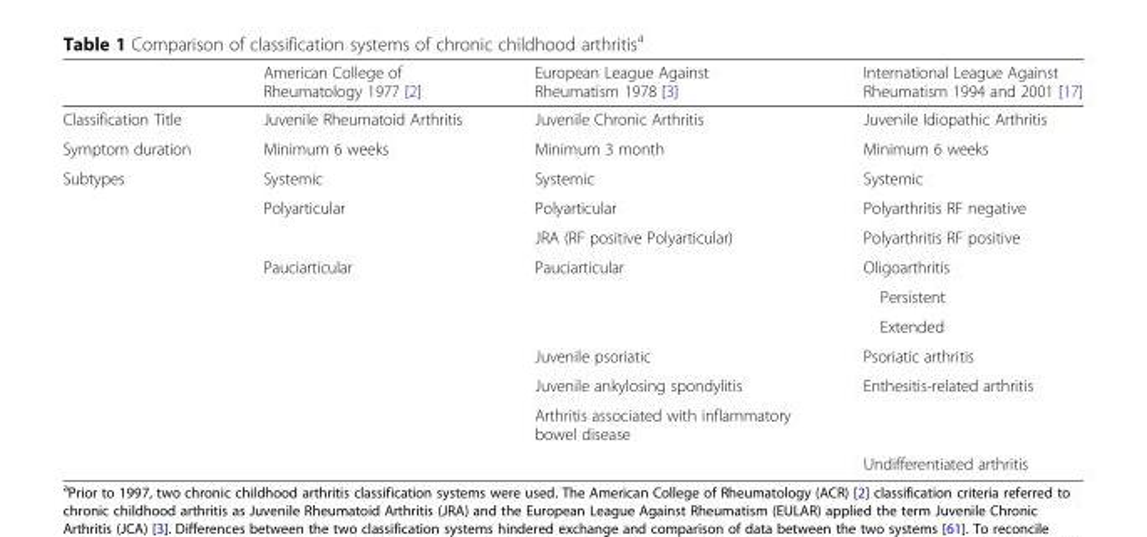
<table><thead><tr><td></td><td>American College of Rheumatology 1977 [2]</td><td>European League Against Rheumatism 1978 [3]</td><td>International League Against Rheumatism 1994 and 2001 [17]</td></tr></thead><tbody><tr><td>Classification Title</td><td>Juvenile Rheumatoid Arthritis</td><td>Juvenile Chronic Arthritis</td><td>Juvenile Idiopathic Arthritis</td></tr><tr><td>Symptom duration</td><td>Minimum 6 weeks</td><td>Minimum 3 month</td><td>Minimum 6 weeks</td></tr><tr><td rowspan="10">Subtypes</td><td>Systemic</td><td>Systemic</td><td>Systemic</td></tr><tr><td>Polyarticular</td><td>Polyarticular</td><td>Polyarthritis RF negative</td></tr><tr><td></td><td>JRA (RF positive Polyarticular)</td><td>Polyarthritis RF positive</td></tr><tr><td rowspan="3">Pauciarticular</td><td rowspan="3">Pauciarticular</td><td>Oligoarthritis</td></tr><tr><td>Persistent</td></tr><tr><td>Extended</td></tr><tr><td></td><td>Juvenile psoriatic</td><td>Psoriatic arthritis</td></tr><tr><td></td><td>Juvenile ankylosing spondylitis</td><td>Enthesitis-related arthritis</td></tr><tr><td></td><td>Arthritis associated with inflammatory bowel disease</td><td></td></tr><tr><td></td><td></td><td>Undifferentiated arthritis</td></tr></tbody></table>